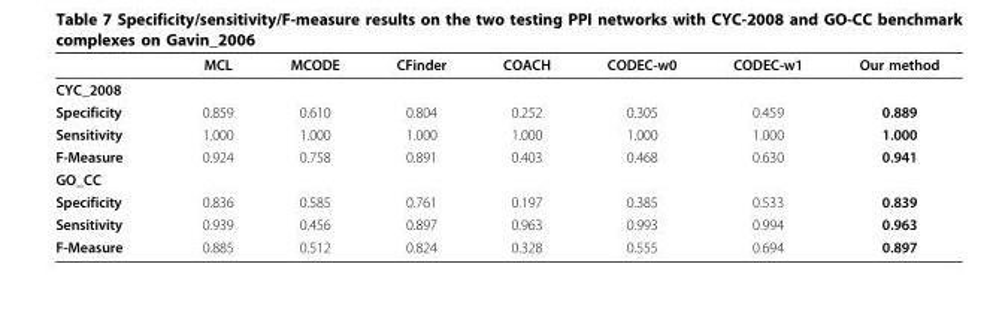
<table><thead><tr><td></td><td>MCL</td><td>MCODE</td><td>CFinder</td><td>COACH</td><td>CODEC-w0</td><td>CODEC-w1</td><td>Our method</td></tr></thead><tbody><tr><td colspan="8">CYC_2008</td></tr><tr><td>Specificity</td><td>0.859</td><td>0.610</td><td>0.804</td><td>0.252</td><td>0.305</td><td>0.459</td><td>0.889</td></tr><tr><td>Sensitivity</td><td>1.000</td><td>1.000</td><td>1.000</td><td>1.000</td><td>1.000</td><td>1.000</td><td>1.000</td></tr><tr><td>F-Measure</td><td>0.924</td><td>0.758</td><td>0.891</td><td>0.403</td><td>0.468</td><td>0.630</td><td>0.941</td></tr><tr><td colspan="8">GO_CC</td></tr><tr><td>Specificity</td><td>0.836</td><td>0.585</td><td>0.761</td><td>0.197</td><td>0.385</td><td>0.533</td><td>0.839</td></tr><tr><td>Sensitivity</td><td>0.939</td><td>0.456</td><td>0.897</td><td>0.963</td><td>0.993</td><td>0.994</td><td>0.963</td></tr><tr><td>F-Measure</td><td>0.885</td><td>0.512</td><td>0.824</td><td>0.328</td><td>0.555</td><td>0.694</td><td>0.897</td></tr></tbody></table>